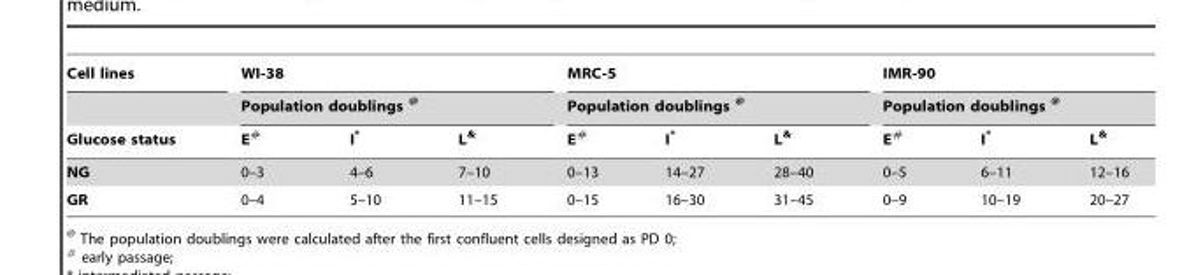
<table><thead><tr><td rowspan="3">Cell lines Glucose status</td><td rowspan="2" colspan="3">WI-38 Population doublings @</td><td rowspan="2" colspan="3">MRC-5 Population doublings @</td><td rowspan="2" colspan="3">IMR-90 Population doublings @</td></tr><tr></tr><tr><td>E#</td><td>I*</td><td>L&amp;</td><td>E#</td><td>I*</td><td>L&amp;</td><td>E#</td><td>I*</td><td>L&amp;</td></tr></thead><tbody><tr><td>NG</td><td>0–3</td><td>4–6</td><td>7–10</td><td>0–13</td><td>14–27</td><td>28–40</td><td>0–5</td><td>6–11</td><td>12–16</td></tr><tr><td>GR</td><td>0–4</td><td>5–10</td><td>11–15</td><td>0–15</td><td>16–30</td><td>31–45</td><td>0–9</td><td>10–19</td><td>20–27</td></tr></tbody></table>